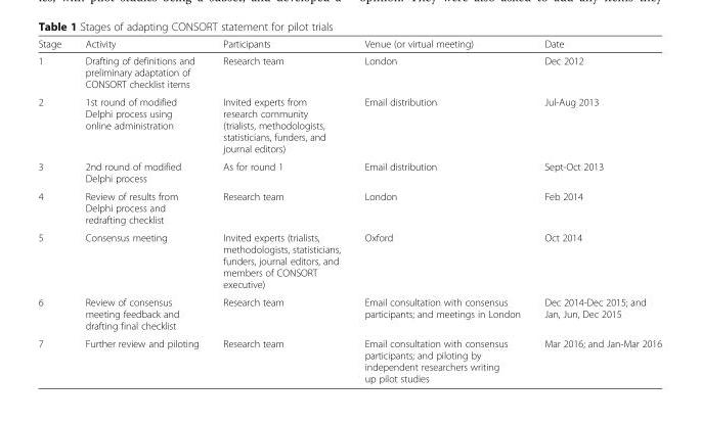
<table><thead><tr><td>Stage</td><td>Activity</td><td>Participants</td><td>Venue (or virtual meeting)</td><td>Date</td></tr></thead><tbody><tr><td>1</td><td>Drafting of definitions and preliminary adaptation of CONSORT checklist items</td><td>Research team</td><td>London</td><td>Dec 2012</td></tr><tr><td>2</td><td>1st round of modified Delphi process using online administration</td><td>Invited experts from research community (trialists, methodologists, statisticians, funders, and journal editors)</td><td>Email distribution</td><td>Jul-Aug 2013</td></tr><tr><td>3</td><td>2nd round of modified Delphi process</td><td>As for round 1</td><td>Email distribution</td><td>Sept-Oct 2013</td></tr><tr><td>4</td><td>Review of results from Delphi process and redrafting checklist</td><td>Research team</td><td>London</td><td>Feb 2014</td></tr><tr><td>5</td><td>Consensus meeting</td><td>Invited experts (trialists, methodologists, statisticians, funders, journal editors, and members of CONSORT executive)</td><td>Oxford</td><td>Oct 2014</td></tr><tr><td>6</td><td>Review of consensus meeting feedback and drafting final checklist</td><td>Research team</td><td>Email consultation with consensus participants; and meetings in London</td><td>Dec 2014-Dec 2015; and Jan, Jun, Dec 2015</td></tr><tr><td>7</td><td>Further review and piloting</td><td>Research team</td><td>Email consultation with consensus participants; and piloting by independent researchers writing up pilot studies</td><td>Mar 2016; and Jan-Mar 2016</td></tr></tbody></table>